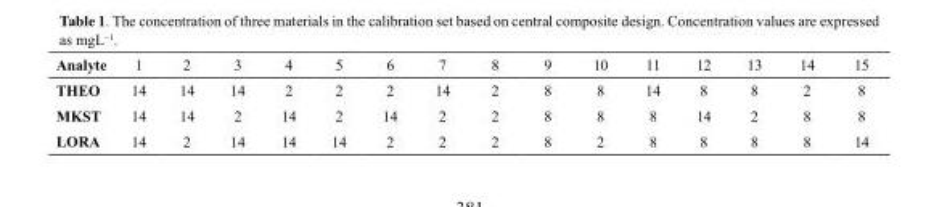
<table><thead><tr><td>Analyte</td><td>1</td><td>2</td><td>3</td><td>4</td><td>5</td><td>6</td><td>7</td><td>8</td><td>9</td><td>10</td><td>11</td><td>12</td><td>13</td><td>14</td><td>15</td></tr></thead><tbody><tr><td>THEO</td><td>14</td><td>14</td><td>14</td><td>2</td><td>2</td><td>2</td><td>14</td><td>2</td><td>8</td><td>8</td><td>14</td><td>8</td><td>8</td><td>2</td><td>8</td></tr><tr><td>MKST</td><td>14</td><td>14</td><td>2</td><td>14</td><td>2</td><td>14</td><td>2</td><td>2</td><td>8</td><td>8</td><td>8</td><td>14</td><td>2</td><td>8</td><td>8</td></tr><tr><td>LORA</td><td>14</td><td>2</td><td>14</td><td>14</td><td>14</td><td>2</td><td>2</td><td>2</td><td>8</td><td>2</td><td>8</td><td>8</td><td>8</td><td>8</td><td>14</td></tr></tbody></table>